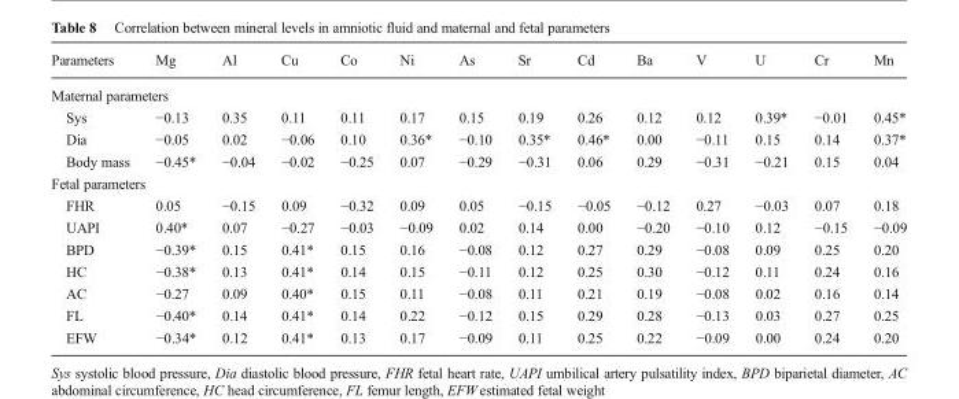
<table><thead><tr><td>Parameters</td><td>Mg</td><td>Al</td><td>Cu</td><td>Co</td><td>Ni</td><td>As</td><td>Sr</td><td>Cd</td><td>Ba</td><td>V</td><td>U</td><td>Cr</td><td>Mn</td></tr></thead><tbody><tr><td colspan="14">Maternal parameters</td></tr><tr><td>Sys</td><td>−0.13</td><td>0.35</td><td>0.11</td><td>0.11</td><td>0.17</td><td>0.15</td><td>0.19</td><td>0.26</td><td>0.12</td><td>0.12</td><td>0.39*</td><td>−0.01</td><td>0.45*</td></tr><tr><td>Dia</td><td>−0.05</td><td>0.02</td><td>−0.06</td><td>0.10</td><td>0.36*</td><td>−0.10</td><td>0.35*</td><td>0.46*</td><td>0.00</td><td>−0.11</td><td>0.15</td><td>0.14</td><td>0.37*</td></tr><tr><td>Body mass</td><td>−0.45*</td><td>−0.04</td><td>−0.02</td><td>−0.25</td><td>0.07</td><td>−0.29</td><td>−0.31</td><td>0.06</td><td>0.29</td><td>−0.31</td><td>−0.21</td><td>0.15</td><td>0.04</td></tr><tr><td colspan="14">Fetal parameters</td></tr><tr><td>FHR</td><td>0.05</td><td>−0.15</td><td>0.09</td><td>−0.32</td><td>0.09</td><td>0.05</td><td>−0.15</td><td>−0.05</td><td>−0.12</td><td>0.27</td><td>−0.03</td><td>0.07</td><td>0.18</td></tr><tr><td>UAPI</td><td>0.40*</td><td>0.07</td><td>−0.27</td><td>−0.03</td><td>−0.09</td><td>0.02</td><td>0.14</td><td>0.00</td><td>−0.20</td><td>−0.10</td><td>0.12</td><td>−0.15</td><td>−0.09</td></tr><tr><td>BPD</td><td>−0.39*</td><td>0.15</td><td>0.41*</td><td>0.15</td><td>0.16</td><td>−0.08</td><td>0.12</td><td>0.27</td><td>0.29</td><td>−0.08</td><td>0.09</td><td>0.25</td><td>0.20</td></tr><tr><td>HC</td><td>−0.38*</td><td>0.13</td><td>0.41*</td><td>0.14</td><td>0.15</td><td>−0.11</td><td>0.12</td><td>0.25</td><td>0.30</td><td>−0.12</td><td>0.11</td><td>0.24</td><td>0.16</td></tr><tr><td>AC</td><td>−0.27</td><td>0.09</td><td>0.40*</td><td>0.15</td><td>0.11</td><td>−0.08</td><td>0.11</td><td>0.21</td><td>0.19</td><td>−0.08</td><td>0.02</td><td>0.16</td><td>0.14</td></tr><tr><td>FL</td><td>−0.40*</td><td>0.14</td><td>0.41*</td><td>0.14</td><td>0.22</td><td>−0.12</td><td>0.15</td><td>0.29</td><td>0.28</td><td>−0.13</td><td>0.03</td><td>0.27</td><td>0.25</td></tr><tr><td>EFW</td><td>−0.34*</td><td>0.12</td><td>0.41*</td><td>0.13</td><td>0.17</td><td>−0.09</td><td>0.11</td><td>0.25</td><td>0.22</td><td>−0.09</td><td>0.00</td><td>0.24</td><td>0.20</td></tr></tbody></table>